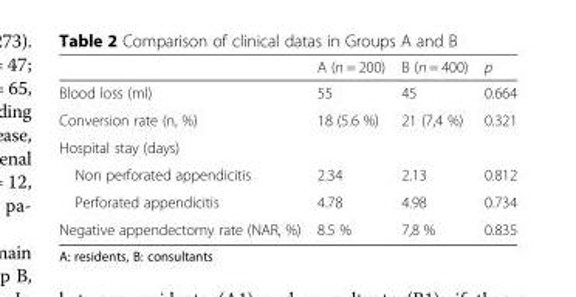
<table><thead><tr><td></td><td>A (n = 200)</td><td>B (n = 400)</td><td>p</td></tr></thead><tbody><tr><td>Blood loss (ml)</td><td>55</td><td>45</td><td>0.664</td></tr><tr><td>Conversion rate (n, %)</td><td>18 (5.6 %)</td><td>21 (7,4 %)</td><td>0.321</td></tr><tr><td colspan="4">Hospital stay (days)</td></tr><tr><td>Non perforated appendicitis</td><td>2.34</td><td>2.13</td><td>0.812</td></tr><tr><td>Perforated appendicitis</td><td>4.78</td><td>4.98</td><td>0.734</td></tr><tr><td>Negative appendectomy rate (NAR, %)</td><td>8.5 %</td><td>7,8 %</td><td>0.835</td></tr></tbody></table>